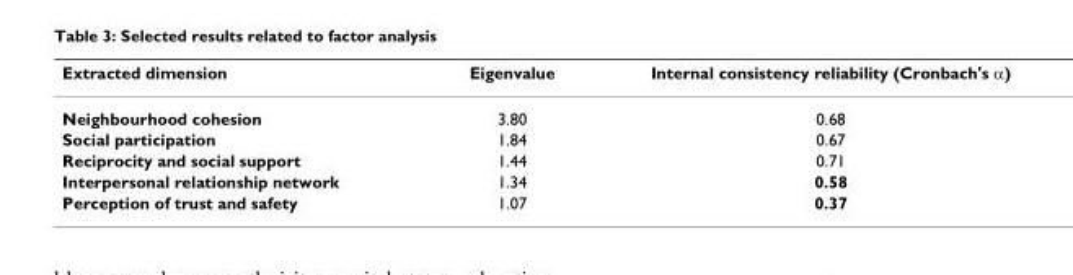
<table><thead><tr><td>Extracted dimension</td><td>Eigenvalue</td><td>Internal consistency reliability (Cronbach&#x27;s α)</td></tr></thead><tbody><tr><td>Neighbourhood cohesion</td><td>3.80</td><td>0.68</td></tr><tr><td>Social participation</td><td>1.84</td><td>0.67</td></tr><tr><td>Reciprocity and social support</td><td>1.44</td><td>0.71</td></tr><tr><td>Interpersonal relationship network</td><td>1.34</td><td>0.58</td></tr><tr><td>Perception of trust and safety</td><td>1.07</td><td>0.37</td></tr></tbody></table>